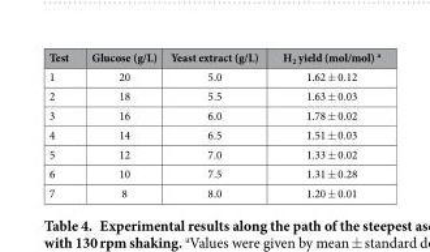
<table><thead><tr><td>Test</td><td>Glucose (g/L)</td><td>Yeast extract (g/L)</td><td>H<sub>2</sub> yield (mol/mol) a</td></tr></thead><tbody><tr><td>1</td><td>20</td><td>5.0</td><td>1.62 ± 0.12</td></tr><tr><td>2</td><td>18</td><td>5.5</td><td>1.63 ± 0.03</td></tr><tr><td>3</td><td>16</td><td>6.0</td><td>1.78 ± 0.02</td></tr><tr><td>4</td><td>14</td><td>6.5</td><td>1.51 ± 0.03</td></tr><tr><td>5</td><td>12</td><td>7.0</td><td>1.33 ± 0.02</td></tr><tr><td>6</td><td>10</td><td>7.5</td><td>1.31 ± 0.28</td></tr><tr><td>7</td><td>8</td><td>8.0</td><td>1.20 ± 0.01</td></tr></tbody></table>